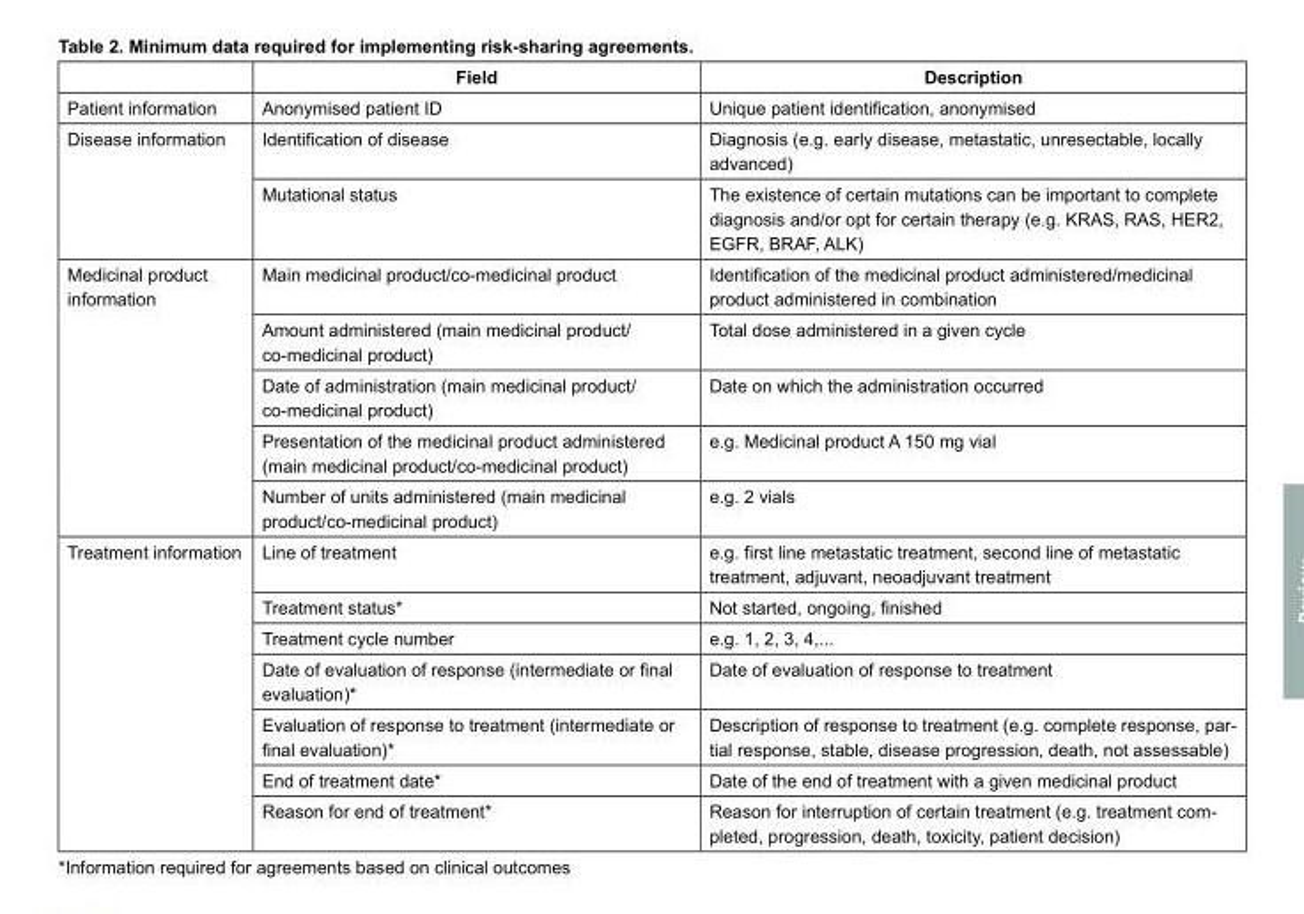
<table><thead><tr><td></td><td>Field</td><td>Description</td></tr></thead><tbody><tr><td>Patient information</td><td>Anonymised patient ID</td><td>Unique patient identification, anonymised</td></tr><tr><td rowspan="2">Disease information</td><td>Identification of disease</td><td>Diagnosis (e.g. early disease, metastatic, unresectable, locally advanced)</td></tr><tr><td>Mutational status</td><td>The existence of certain mutations can be important to complete diagnosis and/or opt for certain therapy (e.g. KRAS, RAS, HER2, EGFR, BRAF, ALK)</td></tr><tr><td rowspan="5">Medicinal product information</td><td>Main medicinal product/co-medicinal product</td><td>Identification of the medicinal product administered/medicinal product administered in combination</td></tr><tr><td>Amount administered (main medicinal product/ co-medicinal product)</td><td>Total dose administered in a given cycle</td></tr><tr><td>Date of administration (main medicinal product/ co-medicinal product)</td><td>Date on which the administration occurred</td></tr><tr><td>Presentation of the medicinal product administered (main medicinal product/co-medicinal product)</td><td>e.g. Medicinal product A 150 mg vial</td></tr><tr><td>Number of units administered (main medicinal product/co-medicinal product)</td><td>e.g. 2 vials</td></tr><tr><td rowspan="7">Treatment information</td><td>Line of treatment</td><td>e.g. first line metastatic treatment, second line of metastatic treatment, adjuvant, neoadjuvant treatment</td></tr><tr><td>Treatment status*</td><td>Not started, ongoing, finished</td></tr><tr><td>Treatment cycle number</td><td>e.g. 1, 2, 3, 4,...</td></tr><tr><td>Date of evaluation of response (intermediate or final evaluation)*</td><td>Date of evaluation of response to treatment</td></tr><tr><td>Evaluation of response to treatment (intermediate or final evaluation)*</td><td>Description of response to treatment (e.g. complete response, par- tial response, stable, disease progression, death, not assessable)</td></tr><tr><td>End of treatment date*</td><td>Date of the end of treatment with a given medicinal product</td></tr><tr><td>Reason for end of treatment*</td><td>Reason for interruption of certain treatment (e.g. treatment com- pleted, progression, death, toxicity, patient decision)</td></tr></tbody></table>